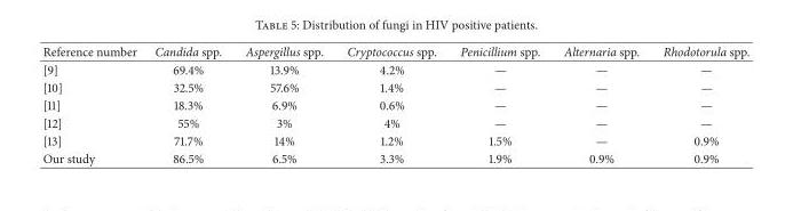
<table><thead><tr><td>Reference number</td><td>Candida spp.</td><td>Aspergillus spp.</td><td>Cryptococcus spp.</td><td>Penicillium spp.</td><td>Alternaria spp.</td><td>Rhodotorula spp.</td></tr></thead><tbody><tr><td>[9]</td><td>69.4%</td><td>13.9%</td><td>4.2%</td><td>—</td><td>—</td><td>—</td></tr><tr><td>[10]</td><td>32.5%</td><td>57.6%</td><td>1.4%</td><td>—</td><td>—</td><td>—</td></tr><tr><td>[11]</td><td>18.3%</td><td>6.9%</td><td>0.6%</td><td>—</td><td>—</td><td>—</td></tr><tr><td>[12]</td><td>55%</td><td>3%</td><td>4%</td><td>—</td><td>—</td><td>—</td></tr><tr><td>[13]</td><td>71.7%</td><td>14%</td><td>1.2%</td><td>1.5%</td><td>—</td><td>0.9%</td></tr><tr><td>Our study</td><td>86.5%</td><td>6.5%</td><td>3.3%</td><td>1.9%</td><td>0.9%</td><td>0.9%</td></tr></tbody></table>